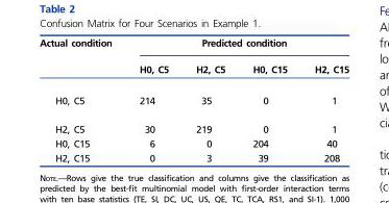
<table><thead><tr><td rowspan="2">Actual condition</td><td colspan="4">Predicted condition</td></tr><tr><td>H0, C5</td><td>H2, C5</td><td>H0, C15</td><td>H2, C15</td></tr></thead><tbody><tr><td>H0, C5</td><td>214</td><td>35</td><td>0</td><td>1</td></tr><tr><td>H2, C5</td><td>30</td><td>219</td><td>0</td><td>1</td></tr><tr><td>H0, C15</td><td>6</td><td>0</td><td>204</td><td>40</td></tr><tr><td>H2, C15</td><td>0</td><td>3</td><td>39</td><td>208</td></tr></tbody></table>